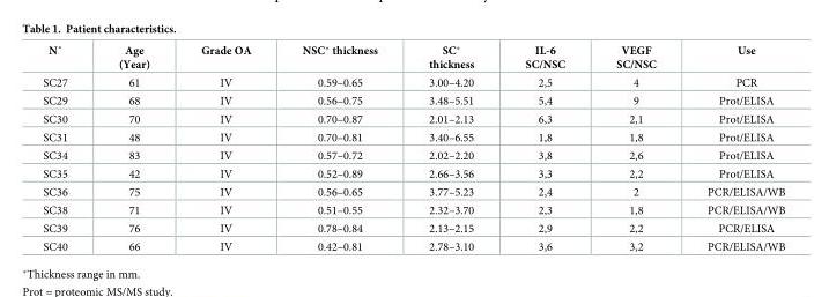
<table><thead><tr><td>N˚</td><td>Age (Year)</td><td>Grade OA</td><td>NSC* thickness</td><td>SC* thickness</td><td>IL-6 SC/NSC</td><td>VEGF SC/NSC</td><td>Use</td></tr></thead><tbody><tr><td>SC27</td><td>61</td><td>IV</td><td>0.59–0.65</td><td>3.00–4.20</td><td>2,5</td><td>4</td><td>PCR</td></tr><tr><td>SC29</td><td>68</td><td>IV</td><td>0.56–0.75</td><td>3.48–5.51</td><td>5,4</td><td>9</td><td>Prot/ELISA</td></tr><tr><td>SC30</td><td>70</td><td>IV</td><td>0.70–0.87</td><td>2.01–2.13</td><td>6,3</td><td>2,1</td><td>Prot/ELISA</td></tr><tr><td>SC31</td><td>48</td><td>IV</td><td>0.70–0.81</td><td>3.40–6.55</td><td>1,8</td><td>1,8</td><td>Prot/ELISA</td></tr><tr><td>SC34</td><td>83</td><td>IV</td><td>0.57–0.72</td><td>2.02–2.20</td><td>3,8</td><td>2,6</td><td>Prot/ELISA</td></tr><tr><td>SC35</td><td>42</td><td>IV</td><td>0.52–0.89</td><td>2.66–3.56</td><td>3,3</td><td>2,2</td><td>Prot/ELISA</td></tr><tr><td>SC36</td><td>75</td><td>IV</td><td>0.56–0.65</td><td>3.77–5.23</td><td>2,4</td><td>2</td><td>PCR/ELISA/WB</td></tr><tr><td>SC38</td><td>71</td><td>IV</td><td>0.51–0.55</td><td>2.32–3.70</td><td>2,3</td><td>1,8</td><td>PCR/ELISA/WB</td></tr><tr><td>SC39</td><td>76</td><td>IV</td><td>0.78–0.84</td><td>2.13–2.15</td><td>2,9</td><td>2,2</td><td>PCR/ELISA</td></tr><tr><td>SC40</td><td>66</td><td>IV</td><td>0.42–0.81</td><td>2.78–3.10</td><td>3,6</td><td>3,2</td><td>PCR/ELISA/WB</td></tr></tbody></table>